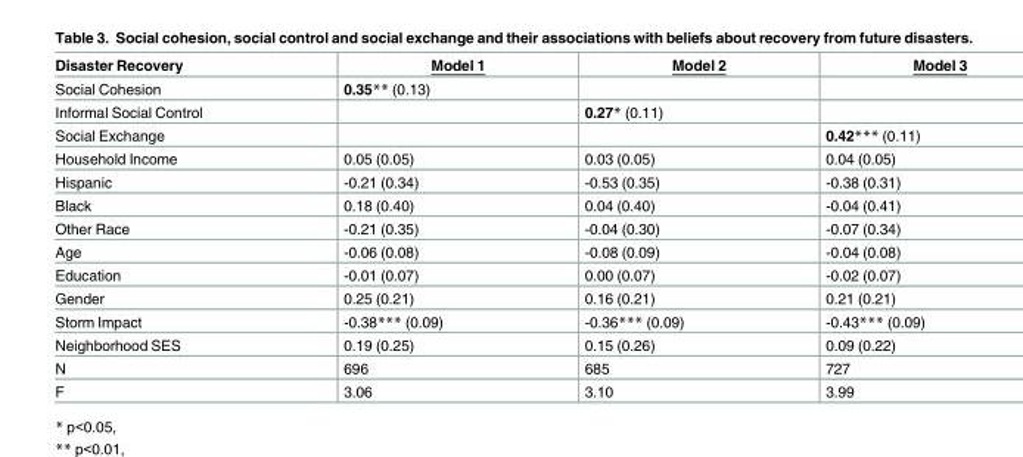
<table><thead><tr><td>Disaster Recovery</td><td>Model 1</td><td>Model 2</td><td>Model 3</td></tr></thead><tbody><tr><td>Social Cohesion</td><td>0.35** (0.13)</td><td></td><td></td></tr><tr><td>Informal Social Control</td><td></td><td>0.27* (0.11)</td><td></td></tr><tr><td>Social Exchange</td><td></td><td></td><td>0.42*** (0.11)</td></tr><tr><td>Household Income</td><td>0.05 (0.05)</td><td>0.03 (0.05)</td><td>0.04 (0.05)</td></tr><tr><td>Hispanic</td><td>-0.21 (0.34)</td><td>-0.53 (0.35)</td><td>-0.38 (0.31)</td></tr><tr><td>Black</td><td>0.18 (0.40)</td><td>0.04 (0.40)</td><td>-0.04 (0.41)</td></tr><tr><td>Other Race</td><td>-0.21 (0.35)</td><td>-0.04 (0.30)</td><td>-0.07 (0.34)</td></tr><tr><td>Age</td><td>-0.06 (0.08)</td><td>-0.08 (0.09)</td><td>-0.04 (0.08)</td></tr><tr><td>Education</td><td>-0.01 (0.07)</td><td>0.00 (0.07)</td><td>-0.02 (0.07)</td></tr><tr><td>Gender</td><td>0.25 (0.21)</td><td>0.16 (0.21)</td><td>0.21 (0.21)</td></tr><tr><td>Storm Impact</td><td>-0.38*** (0.09)</td><td>-0.36*** (0.09)</td><td>-0.43*** (0.09)</td></tr><tr><td>Neighborhood SES</td><td>0.19 (0.25)</td><td>0.15 (0.26)</td><td>0.09 (0.22)</td></tr><tr><td>N</td><td>696</td><td>685</td><td>727</td></tr><tr><td>F</td><td>3.06</td><td>3.10</td><td>3.99</td></tr></tbody></table>